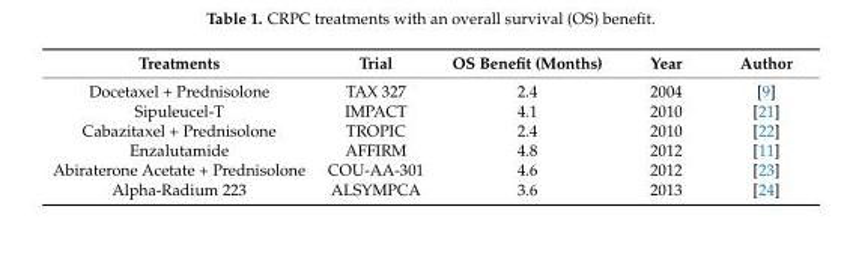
<table><thead><tr><td>Treatments</td><td>Trial</td><td>OS Benefit (Months)</td><td>Year</td><td>Author</td></tr></thead><tbody><tr><td>Docetaxel + Prednisolone</td><td>TAX 327</td><td>2.4</td><td>2004</td><td>[9]</td></tr><tr><td>Sipuleucel-T</td><td>IMPACT</td><td>4.1</td><td>2010</td><td>[21]</td></tr><tr><td>Cabazitaxel + Prednisolone</td><td>TROPIC</td><td>2.4</td><td>2010</td><td>[22]</td></tr><tr><td>Enzalutamide</td><td>AFFIRM</td><td>4.8</td><td>2012</td><td>[11]</td></tr><tr><td>Abiraterone Acetate + Prednisolone</td><td>COU-AA-301</td><td>4.6</td><td>2012</td><td>[23]</td></tr><tr><td>Alpha-Radium 223</td><td>ALSYMPCA</td><td>3.6</td><td>2013</td><td>[24]</td></tr></tbody></table>